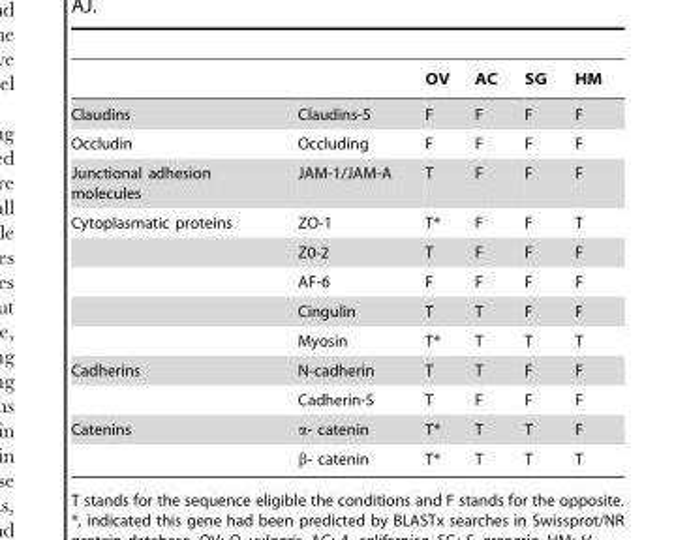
<table><thead><tr><td></td><td></td><td>OV</td><td>AC</td><td>SG</td><td>HM</td></tr></thead><tbody><tr><td>Claudins</td><td>Claudins-5</td><td>F</td><td>F</td><td>F</td><td>F</td></tr><tr><td>Occludin</td><td>Occluding</td><td>F</td><td>F</td><td>F</td><td>F</td></tr><tr><td>Junctional adhesion molecules</td><td>JAM-1/JAM-A</td><td>T</td><td>F</td><td>F</td><td>F</td></tr><tr><td rowspan="5">Cytoplasmatic proteins</td><td>ZO-1</td><td>T*</td><td>F</td><td>F</td><td>T</td></tr><tr><td>Z0-2</td><td>T</td><td>F</td><td>F</td><td>F</td></tr><tr><td>AF-6</td><td>F</td><td>F</td><td>F</td><td>F</td></tr><tr><td>Cingulin</td><td>T</td><td>T</td><td>F</td><td>F</td></tr><tr><td>Myosin</td><td>T*</td><td>T</td><td>T</td><td>T</td></tr><tr><td rowspan="2">Cadherins</td><td>N-cadherin</td><td>T</td><td>T</td><td>F</td><td>F</td></tr><tr><td>Cadherin-5</td><td>T</td><td>F</td><td>F</td><td>F</td></tr><tr><td rowspan="2">Catenins</td><td>α- catenin</td><td>T*</td><td>T</td><td>T</td><td>F</td></tr><tr><td>β- catenin</td><td>T*</td><td>T</td><td>T</td><td>T</td></tr></tbody></table>